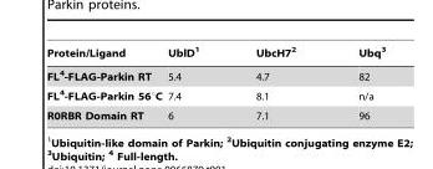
<table><thead><tr><td>Protein/Ligand</td><td>UblD<sup>1</sup></td><td>UbcH7<sup>2</sup></td><td>Ubq<sup>3</sup></td></tr></thead><tbody><tr><td>FL<sup>4</sup>-FLAG-Parkin RT</td><td>5.4</td><td>4.7</td><td>82</td></tr><tr><td>FL<sup>4</sup>-FLAG-Parkin 56°C</td><td>7.4</td><td>8.1</td><td>n/a</td></tr><tr><td>R0RBR Domain RT</td><td>6</td><td>7.1</td><td>96</td></tr></tbody></table>